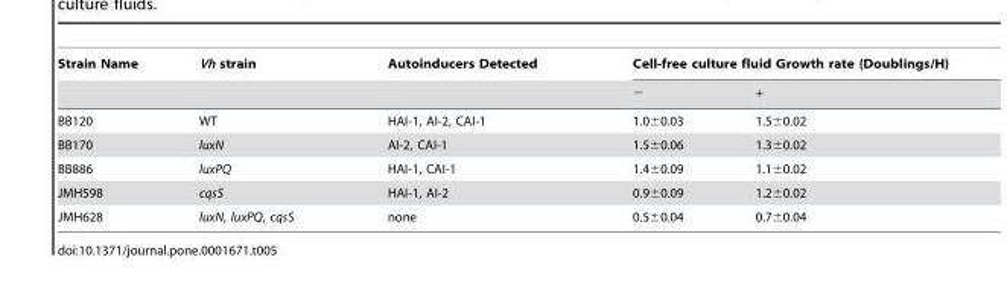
<table><thead><tr><td rowspan="2">Strain Name</td><td rowspan="2">Vh strain</td><td rowspan="2">Autoinducers Detected</td><td colspan="2">Cell-free culture fluid Growth rate (Doublings/H)</td></tr><tr><td>−</td><td>+</td></tr></thead><tbody><tr><td>BB120</td><td>WT</td><td>HAI-1, AI-2, CAI-1</td><td>1.0±0.03</td><td>1.5±0.02</td></tr><tr><td>BB170</td><td>luxN</td><td>AI-2, CAI-1</td><td>1.5±0.06</td><td>1.3±0.02</td></tr><tr><td>BB886</td><td>luxPQ</td><td>HAI-1, CAI-1</td><td>1.4±0.09</td><td>1.1±0.02</td></tr><tr><td>JMH598</td><td>cqsS</td><td>HAI-1, AI-2</td><td>0.9±0.09</td><td>1.2±0.02</td></tr><tr><td>JMH628</td><td>luxN, luxPQ, cqsS</td><td>none</td><td>0.5±0.04</td><td>0.7±0.04</td></tr></tbody></table>